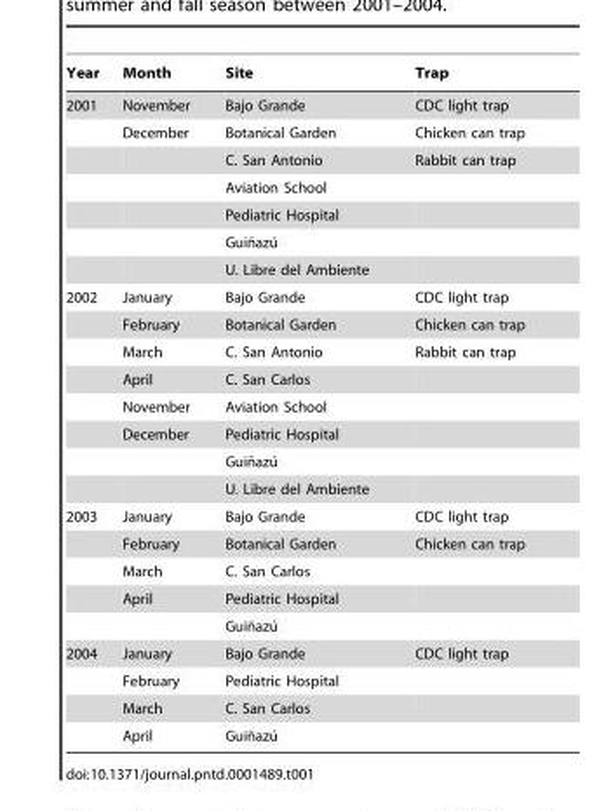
<table><thead><tr><td>Year</td><td>Month</td><td>Site</td><td>Trap</td></tr></thead><tbody><tr><td rowspan="7">2001</td><td>November</td><td>Bajo Grande</td><td>CDC light trap</td></tr><tr><td>December</td><td>Botanical Garden</td><td>Chicken can trap</td></tr><tr><td></td><td>C. San Antonio</td><td>Rabbit can trap</td></tr><tr><td></td><td>Aviation School</td><td></td></tr><tr><td></td><td>Pediatric Hospital</td><td></td></tr><tr><td></td><td>Guin˜azu´</td><td></td></tr><tr><td></td><td>U. Libre del Ambiente</td><td></td></tr><tr><td rowspan="8">2002</td><td>January</td><td>Bajo Grande</td><td>CDC light trap</td></tr><tr><td>February</td><td>Botanical Garden</td><td>Chicken can trap</td></tr><tr><td>March</td><td>C. San Antonio</td><td>Rabbit can trap</td></tr><tr><td>April</td><td>C. San Carlos</td><td></td></tr><tr><td>November</td><td>Aviation School</td><td></td></tr><tr><td>December</td><td>Pediatric Hospital</td><td></td></tr><tr><td></td><td>Guin˜azu´</td><td></td></tr><tr><td></td><td>U. Libre del Ambiente</td><td></td></tr><tr><td rowspan="5">2003</td><td>January</td><td>Bajo Grande</td><td>CDC light trap</td></tr><tr><td>February</td><td>Botanical Garden</td><td>Chicken can trap</td></tr><tr><td>March</td><td>C. San Carlos</td><td></td></tr><tr><td>April</td><td>Pediatric Hospital</td><td></td></tr><tr><td></td><td>Guin˜azu´</td><td></td></tr><tr><td rowspan="4">2004</td><td>January</td><td>Bajo Grande</td><td>CDC light trap</td></tr><tr><td>February</td><td>Pediatric Hospital</td><td></td></tr><tr><td>March</td><td>C. San Carlos</td><td></td></tr><tr><td>April</td><td>Guin˜azu´</td><td></td></tr></tbody></table>